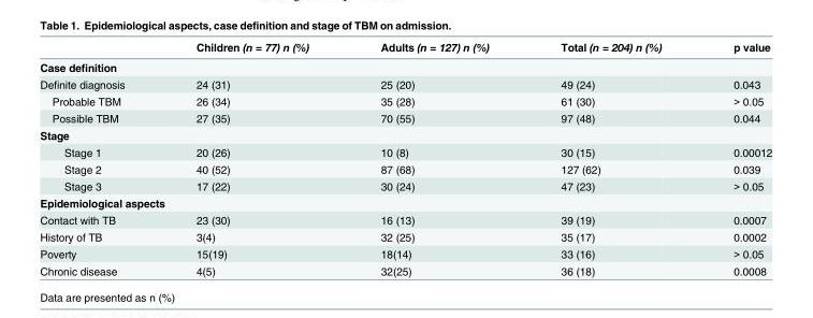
<table><thead><tr><td></td><td>Children (n = 77) n (%)</td><td>Adults (n = 127) n (%)</td><td>Total (n = 204) n (%)</td><td>p value</td></tr></thead><tbody><tr><td colspan="5">Case definition</td></tr><tr><td>Definite diagnosis</td><td>24 (31)</td><td>25 (20)</td><td>49 (24)</td><td>0.043</td></tr><tr><td>Probable TBM</td><td>26 (34)</td><td>35 (28)</td><td>61 (30)</td><td>&gt; 0.05</td></tr><tr><td>Possible TBM</td><td>27 (35)</td><td>70 (55)</td><td>97 (48)</td><td>0.044</td></tr><tr><td colspan="5">Stage</td></tr><tr><td>Stage 1</td><td>20 (26)</td><td>10 (8)</td><td>30 (15)</td><td>0.00012</td></tr><tr><td>Stage 2</td><td>40 (52)</td><td>87 (68)</td><td>127 (62)</td><td>0.039</td></tr><tr><td>Stage 3</td><td>17 (22)</td><td>30 (24)</td><td>47 (23)</td><td>&gt; 0.05</td></tr><tr><td colspan="5">Epidemiological aspects</td></tr><tr><td>Contact with TB</td><td>23 (30)</td><td>16 (13)</td><td>39 (19)</td><td>0.0007</td></tr><tr><td>History of TB</td><td>3(4)</td><td>32 (25)</td><td>35 (17)</td><td>0.0002</td></tr><tr><td>Poverty</td><td>15(19)</td><td>18(14)</td><td>33 (16)</td><td>&gt; 0.05</td></tr><tr><td>Chronic disease</td><td>4(5)</td><td>32(25)</td><td>36 (18)</td><td>0.0008</td></tr></tbody></table>